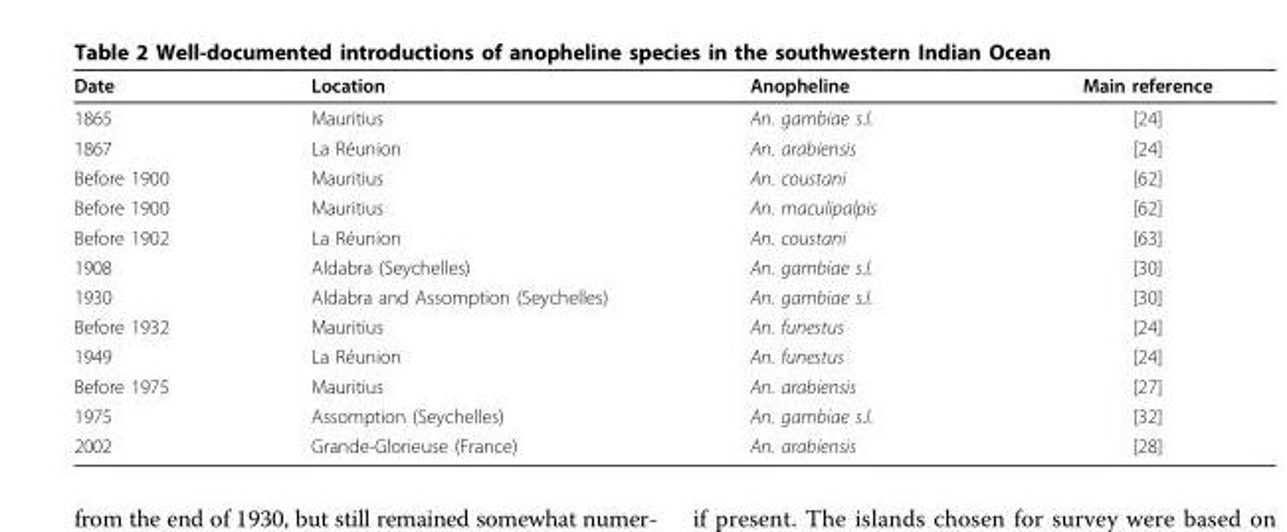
<table><thead><tr><td>Date</td><td>Location</td><td>Anopheline</td><td>Main reference</td></tr></thead><tbody><tr><td>1865</td><td>Mauritius</td><td>An. gambiae s.l.</td><td>[24]</td></tr><tr><td>1867</td><td>La Réunion</td><td>An. arabiensis</td><td>[24]</td></tr><tr><td>Before 1900</td><td>Mauritius</td><td>An. coustani</td><td>[62]</td></tr><tr><td>Before 1900</td><td>Mauritius</td><td>An. maculipalpis</td><td>[62]</td></tr><tr><td>Before 1902</td><td>La Réunion</td><td>An. coustani</td><td>[63]</td></tr><tr><td>1908</td><td>Aldabra (Seychelles)</td><td>An. gambiae s.l.</td><td>[30]</td></tr><tr><td>1930</td><td>Aldabra and Assomption (Seychelles)</td><td>An. gambiae s.l.</td><td>[30]</td></tr><tr><td>Before 1932</td><td>Mauritius</td><td>An. funestus</td><td>[24]</td></tr><tr><td>1949</td><td>La Réunion</td><td>An. funestus</td><td>[24]</td></tr><tr><td>Before 1975</td><td>Mauritius</td><td>An. arabiensis</td><td>[27]</td></tr><tr><td>1975</td><td>Assomption (Seychelles)</td><td>An. gambiae s.l.</td><td>[32]</td></tr><tr><td>2002</td><td>Grande-Glorieuse (France)</td><td>An. arabiensis</td><td>[28]</td></tr></tbody></table>